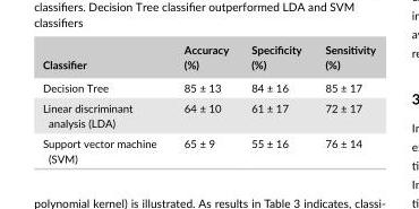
<table><thead><tr><td>Classifier</td><td>Accuracy (%)</td><td>Specificity (%)</td><td>Sensitivity (%)</td></tr></thead><tbody><tr><td>Decision Tree</td><td>85 ± 13</td><td>84 ± 16</td><td>85 ± 17</td></tr><tr><td>Linear discriminant analysis (LDA)</td><td>64 ± 10</td><td>61 ± 17</td><td>72 ± 17</td></tr><tr><td>Support vector machine (SVM)</td><td>65 ± 9</td><td>55 ± 16</td><td>76 ± 14</td></tr></tbody></table>